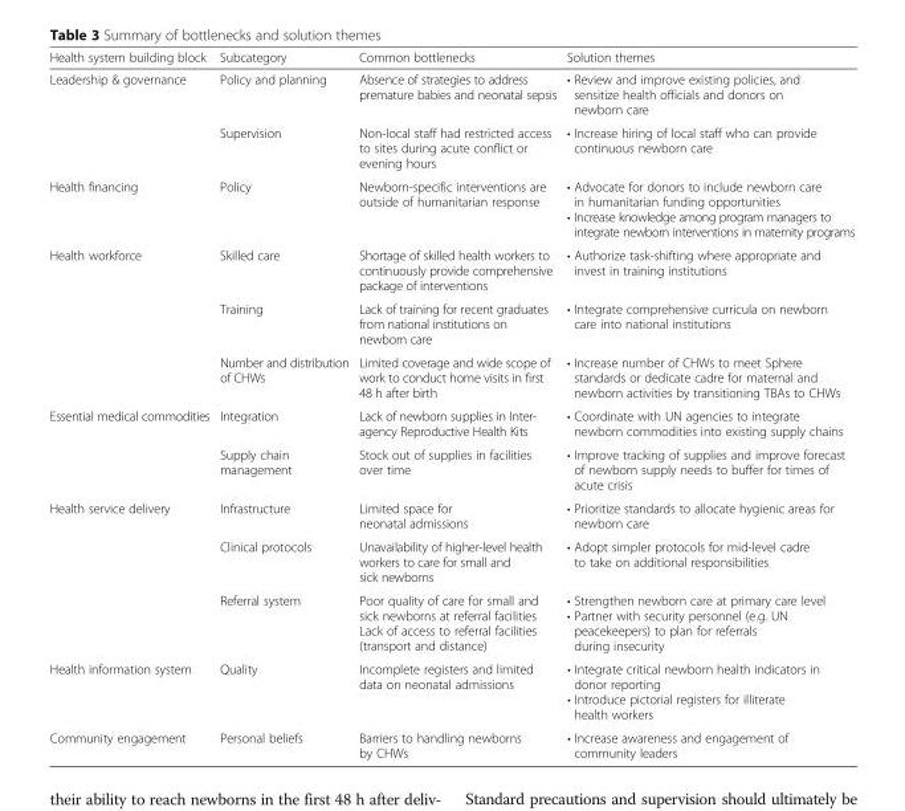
<table><thead><tr><td>Health system building block</td><td>Subcategory</td><td>Common bottlenecks</td><td>Solution themes</td></tr></thead><tbody><tr><td rowspan="2">Leadership &amp; governance</td><td>Policy and planning</td><td>Absence of strategies to address premature babies and neonatal sepsis</td><td>• Review and improve existing policies, and sensitize health officials and donors on newborn care</td></tr><tr><td>Supervision</td><td>Non-local staff had restricted access to sites during acute conflict or evening hours</td><td>• Increase hiring of local staff who can provide continuous newborn care</td></tr><tr><td>Health financing</td><td>Policy</td><td>Newborn-specific interventions are outside of humanitarian response</td><td>• Advocate for donors to include newborn care in humanitarian funding opportunities • Increase knowledge among program managers to integrate newborn interventions in maternity programs</td></tr><tr><td rowspan="3">Health workforce</td><td>Skilled care</td><td>Shortage of skilled health workers to continuously provide comprehensive package of interventions</td><td>• Authorize task-shifting where appropriate and invest in training institutions</td></tr><tr><td>Training</td><td>Lack of training for recent graduates from national institutions on newborn care</td><td>• Integrate comprehensive curricula on newborn care into national institutions</td></tr><tr><td>Number and distribution of CHWs</td><td>Limited coverage and wide scope of work to conduct home visits in first 48 h after birth</td><td>• Increase number of CHWs to meet Sphere standards or dedicate cadre for maternal and newborn activities by transitioning TBAs to CHWs</td></tr><tr><td rowspan="2">Essential medical commodities</td><td>Integration</td><td>Lack of newborn supplies in Inter- agency Reproductive Health Kits</td><td>• Coordinate with UN agencies to integrate newborn commodities into existing supply chains</td></tr><tr><td>Supply chain management</td><td>Stock out of supplies in facilities over time</td><td>• Improve tracking of supplies and improve forecast of newborn supply needs to buffer for times of acute crisis</td></tr><tr><td rowspan="3">Health service delivery</td><td>Infrastructure</td><td>Limited space for neonatal admissions</td><td>• Prioritize standards to allocate hygienic areas for newborn care</td></tr><tr><td>Clinical protocols</td><td>Unavailability of higher-level health workers to care for small and sick newborns</td><td>• Adopt simpler protocols for mid-level cadre to take on additional responsibilities</td></tr><tr><td>Referral system</td><td>Poor quality of care for small and sick newborns at referral facilities Lack of access to referral facilities (transport and distance)</td><td>• Strengthen newborn care at primary care level • Partner with security personnel (e.g. UN peacekeepers) to plan for referrals during insecurity</td></tr><tr><td>Health information system</td><td>Quality</td><td>Incomplete registers and limited data on neonatal admissions</td><td>• Integrate critical newborn health indicators in donor reporting • Introduce pictorial registers for illiterate health workers</td></tr><tr><td>Community engagement</td><td>Personal beliefs</td><td>Barriers to handling newborns by CHWs</td><td>• Increase awareness and engagement of community leaders</td></tr></tbody></table>